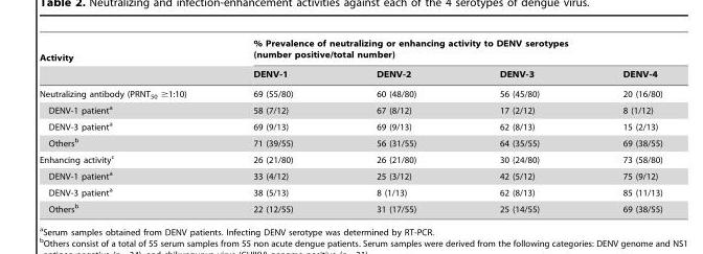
<table><thead><tr><td rowspan="2">Activity</td><td colspan="4">% Prevalence of neutralizing or enhancing activity to DENV serotypes (number positive/total number)</td></tr><tr><td>DENV-1</td><td>DENV-2</td><td>DENV-3</td><td>DENV-4</td></tr></thead><tbody><tr><td>Neutralizing antibody (PRNT50 ≥1:10)</td><td>69 (55/80)</td><td>60 (48/80)</td><td>56 (45/80)</td><td>20 (16/80)</td></tr><tr><td>DENV-1 patient<sup>a</sup></td><td>58 (7/12)</td><td>67 (8/12)</td><td>17 (2/12)</td><td>8 (1/12)</td></tr><tr><td>DENV-3 patient<sup>a</sup></td><td>69 (9/13)</td><td>69 (9/13)</td><td>62 (8/13)</td><td>15 (2/13)</td></tr><tr><td>Others<sup>b</sup></td><td>71 (39/55)</td><td>56 (31/55)</td><td>64 (35/55)</td><td>69 (38/55)</td></tr><tr><td>Enhancing activity<sup>c</sup></td><td>26 (21/80)</td><td>26 (21/80)</td><td>30 (24/80)</td><td>73 (58/80)</td></tr><tr><td>DENV-1 patient<sup>a</sup></td><td>33 (4/12)</td><td>25 (3/12)</td><td>42 (5/12)</td><td>75 (9/12)</td></tr><tr><td>DENV-3 patient<sup>a</sup></td><td>38 (5/13)</td><td>8 (1/13)</td><td>62 (8/13)</td><td>85 (11/13)</td></tr><tr><td>Others<sup>b</sup></td><td>22 (12/55)</td><td>31 (17/55)</td><td>25 (14/55)</td><td>69 (38/55)</td></tr></tbody></table>